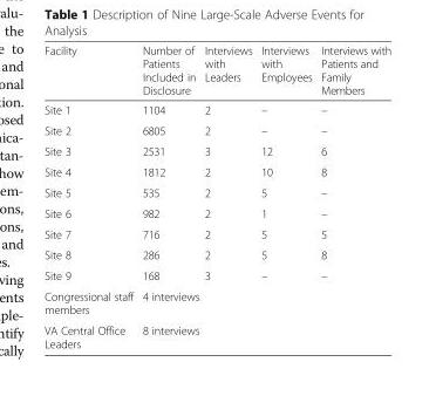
<table><thead><tr><td>Facility</td><td>Number of Patients Included in Disclosure</td><td>Interviews with Leaders</td><td>Interviews with Employees</td><td>Interviews with Patients and Family Members</td></tr></thead><tbody><tr><td>Site 1</td><td>1104</td><td>2</td><td>–</td><td>–</td></tr><tr><td>Site 2</td><td>6805</td><td>2</td><td>–</td><td>–</td></tr><tr><td>Site 3</td><td>2531</td><td>3</td><td>12</td><td>6</td></tr><tr><td>Site 4</td><td>1812</td><td>2</td><td>10</td><td>8</td></tr><tr><td>Site 5</td><td>535</td><td>2</td><td>5</td><td>–</td></tr><tr><td>Site 6</td><td>982</td><td>2</td><td>1</td><td>–</td></tr><tr><td>Site 7</td><td>716</td><td>2</td><td>5</td><td>5</td></tr><tr><td>Site 8</td><td>286</td><td>2</td><td>5</td><td>8</td></tr><tr><td>Site 9</td><td>168</td><td>3</td><td>–</td><td>–</td></tr><tr><td>Congressional staff members</td><td colspan="4">4 interviews</td></tr><tr><td>VA Central Office Leaders</td><td colspan="4">8 interviews</td></tr></tbody></table>